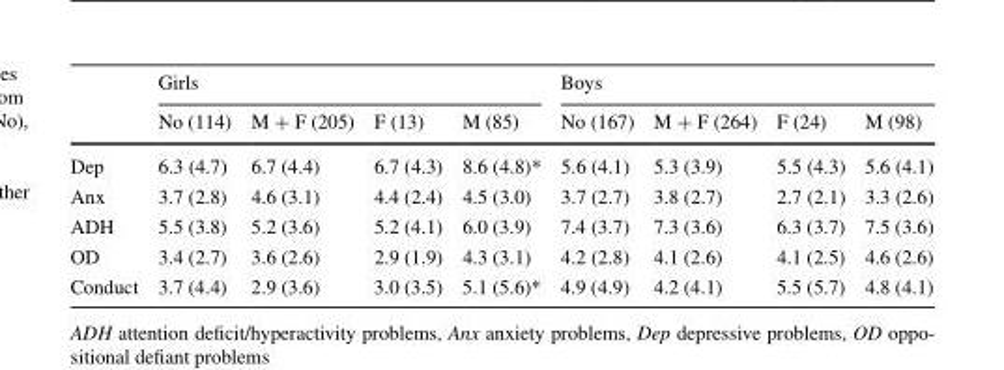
<table><thead><tr><td rowspan="2"></td><td colspan="4">Girls</td><td colspan="4">Boys</td></tr><tr><td>No (114)</td><td>M + F (205)</td><td>F (13)</td><td>M (85)</td><td>No (167)</td><td>M + F (264)</td><td>F (24)</td><td>M (98)</td></tr></thead><tbody><tr><td>Dep</td><td>6.3 (4.7)</td><td>6.7 (4.4)</td><td>6.7 (4.3)</td><td>8.6 (4.8)*</td><td>5.6 (4.1)</td><td>5.3 (3.9)</td><td>5.5 (4.3)</td><td>5.6 (4.1)</td></tr><tr><td>Anx</td><td>3.7 (2.8)</td><td>4.6 (3.1)</td><td>4.4 (2.4)</td><td>4.5 (3.0)</td><td>3.7 (2.7)</td><td>3.8 (2.7)</td><td>2.7 (2.1)</td><td>3.3 (2.6)</td></tr><tr><td>ADH</td><td>5.5 (3.8)</td><td>5.2 (3.6)</td><td>5.2 (4.1)</td><td>6.0 (3.9)</td><td>7.4 (3.7)</td><td>7.3 (3.6)</td><td>6.3 (3.7)</td><td>7.5 (3.6)</td></tr><tr><td>OD</td><td>3.4 (2.7)</td><td>3.6 (2.6)</td><td>2.9 (1.9)</td><td>4.3 (3.1)</td><td>4.2 (2.8)</td><td>4.1 (2.6)</td><td>4.1 (2.5)</td><td>4.6 (2.6)</td></tr><tr><td>Conduct</td><td>3.7 (4.4)</td><td>2.9 (3.6)</td><td>3.0 (3.5)</td><td>5.1 (5.6)*</td><td>4.9 (4.9)</td><td>4.2 (4.1)</td><td>5.5 (5.7)</td><td>4.8 (4.1)</td></tr></tbody></table>